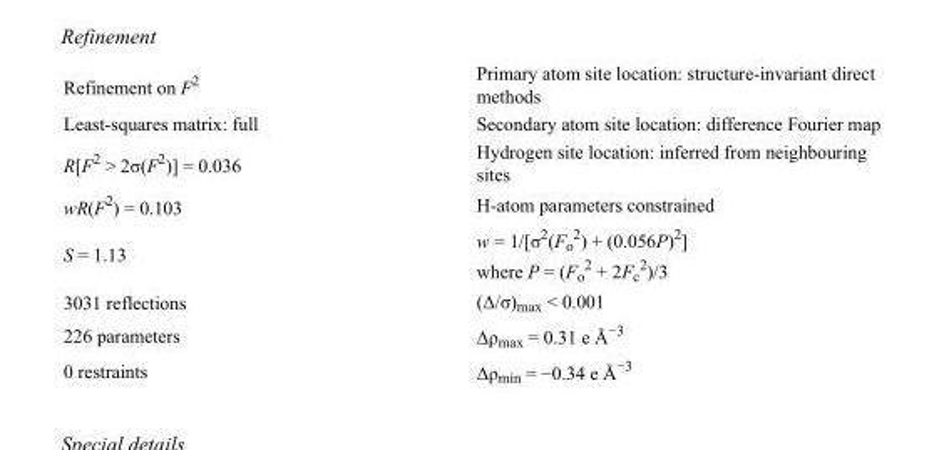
<table><tbody><tr><td>Refinement on F<sup>2</sup></td><td>Primary atom site location: structure-invariant direct methods</td></tr><tr><td>Least-squares matrix: full</td><td>Secondary atom site location: difference Fourier map</td></tr><tr><td>R[F<sup>2</sup> &gt; 2σ(F<sup>2</sup>)] = 0.036</td><td>Hydrogen site location: inferred from neighbouring sites</td></tr><tr><td>wR(F<sup>2</sup>) = 0.103</td><td>H-atom parameters constrained</td></tr><tr><td>S = 1.13</td><td>w = 1/[σ<sup>2</sup>(F<sub>o</sub> <sup>2</sup>) + (0.056P)<sup>2</sup>] where P = (F<sub>o</sub> <sup>2</sup> + 2F<sub>c</sub> <sup>2</sup>)/3</td></tr><tr><td>3031 reflections</td><td>(Δ/σ)<sub>max</sub> &lt; 0.001</td></tr><tr><td>226 parameters</td><td>Δρ<sub>max</sub> = 0.31 e Å<sup>−3</sup></td></tr><tr><td>0 restraints</td><td>Δρ<sub>min</sub> = −0.34 e Å<sup>−3</sup></td></tr></tbody></table>